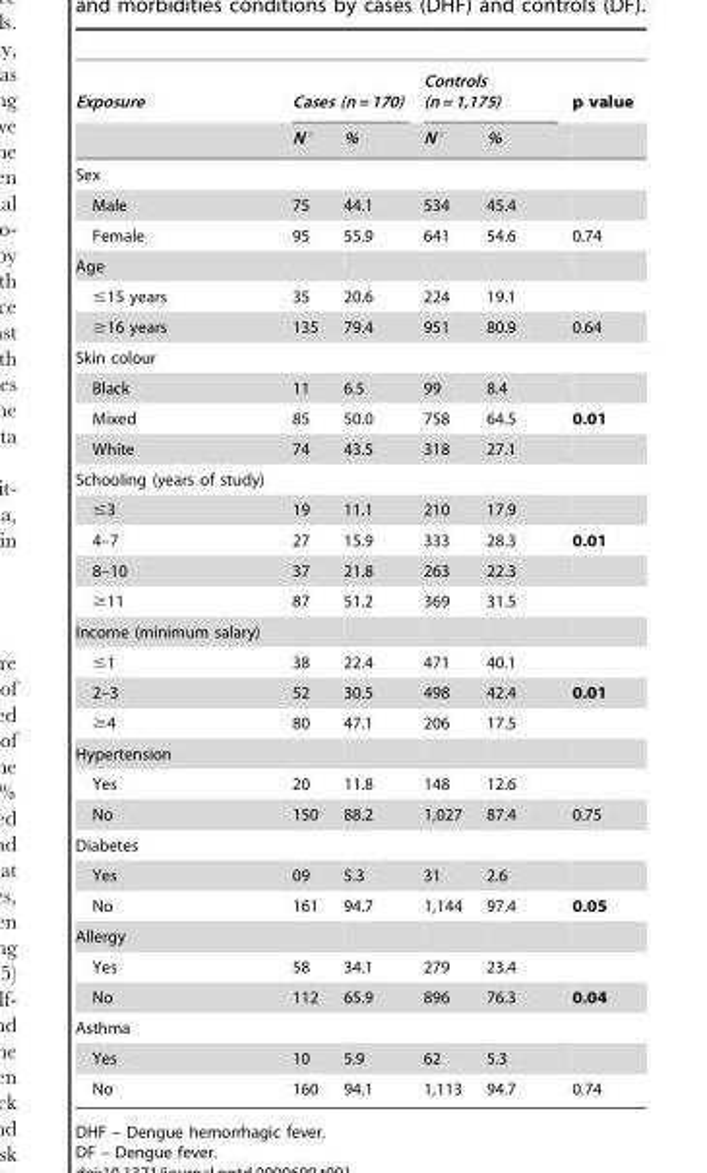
<table><thead><tr><td rowspan="2">Exposure</td><td colspan="2">Cases (n = 170)</td><td colspan="2">Controls (n = 1,175)</td><td rowspan="2">p value</td></tr><tr><td>N°</td><td>%</td><td>N°</td><td>%</td></tr></thead><tbody><tr><td colspan="6">Sex</td></tr><tr><td>Male</td><td>75</td><td>44.1</td><td>534</td><td>45.4</td><td></td></tr><tr><td>Female</td><td>95</td><td>55.9</td><td>641</td><td>54.6</td><td>0.74</td></tr><tr><td colspan="6">Age</td></tr><tr><td>≤15 years</td><td>35</td><td>20.6</td><td>224</td><td>19.1</td><td></td></tr><tr><td>≥16 years</td><td>135</td><td>79.4</td><td>951</td><td>80.9</td><td>0.64</td></tr><tr><td colspan="6">Skin colour</td></tr><tr><td>Black</td><td>11</td><td>6.5</td><td>99</td><td>8.4</td><td></td></tr><tr><td>Mixed</td><td>85</td><td>50.0</td><td>758</td><td>64.5</td><td>0.01</td></tr><tr><td>White</td><td>74</td><td>43.5</td><td>318</td><td>27.1</td><td></td></tr><tr><td colspan="6">Schooling (years of study)</td></tr><tr><td>≤3</td><td>19</td><td>11.1</td><td>210</td><td>17.9</td><td></td></tr><tr><td>4–7</td><td>27</td><td>15.9</td><td>333</td><td>28.3</td><td>0.01</td></tr><tr><td>8–10</td><td>37</td><td>21.8</td><td>263</td><td>22.3</td><td></td></tr><tr><td>≥11</td><td>87</td><td>51.2</td><td>369</td><td>31.5</td><td></td></tr><tr><td colspan="6">Income (minimum salary)</td></tr><tr><td>≤1</td><td>38</td><td>22.4</td><td>471</td><td>40.1</td><td></td></tr><tr><td>2–3</td><td>52</td><td>30.5</td><td>498</td><td>42.4</td><td>0.01</td></tr><tr><td>≥4</td><td>80</td><td>47.1</td><td>206</td><td>17.5</td><td></td></tr><tr><td colspan="6">Hypertension</td></tr><tr><td>Yes</td><td>20</td><td>11.8</td><td>148</td><td>12.6</td><td></td></tr><tr><td>No</td><td>150</td><td>88.2</td><td>1,027</td><td>87.4</td><td>0.75</td></tr><tr><td colspan="6">Diabetes</td></tr><tr><td>Yes</td><td>09</td><td>5.3</td><td>31</td><td>2.6</td><td></td></tr><tr><td>No</td><td>161</td><td>94.7</td><td>1,144</td><td>97.4</td><td>0.05</td></tr><tr><td colspan="6">Allergy</td></tr><tr><td>Yes</td><td>58</td><td>34.1</td><td>279</td><td>23.4</td><td></td></tr><tr><td>No</td><td>112</td><td>65.9</td><td>896</td><td>76.3</td><td>0.04</td></tr><tr><td colspan="6">Asthma</td></tr><tr><td>Yes</td><td>10</td><td>5.9</td><td>62</td><td>5.3</td><td></td></tr><tr><td>No</td><td>160</td><td>94.1</td><td>1,113</td><td>94.7</td><td>0.74</td></tr></tbody></table>